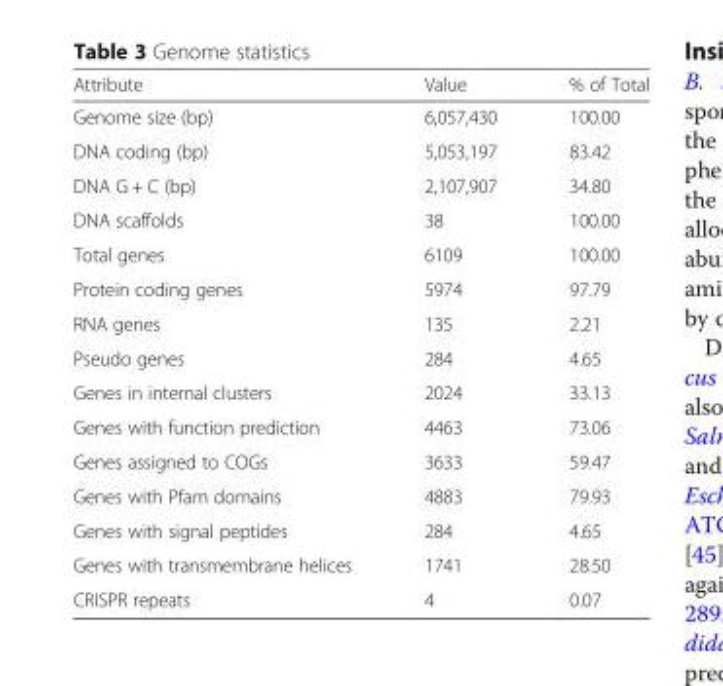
<table><thead><tr><td>Attribute</td><td>Value</td><td>% of Total</td></tr></thead><tbody><tr><td>Genome size (bp)</td><td>6,057,430</td><td>100.00</td></tr><tr><td>DNA coding (bp)</td><td>5,053,197</td><td>83.42</td></tr><tr><td>DNA G + C (bp)</td><td>2,107,907</td><td>34.80</td></tr><tr><td>DNA scaffolds</td><td>38</td><td>100.00</td></tr><tr><td>Total genes</td><td>6109</td><td>100.00</td></tr><tr><td>Protein coding genes</td><td>5974</td><td>97.79</td></tr><tr><td>RNA genes</td><td>135</td><td>2.21</td></tr><tr><td>Pseudo genes</td><td>284</td><td>4.65</td></tr><tr><td>Genes in internal clusters</td><td>2024</td><td>33.13</td></tr><tr><td>Genes with function prediction</td><td>4463</td><td>73.06</td></tr><tr><td>Genes assigned to COGs</td><td>3633</td><td>59.47</td></tr><tr><td>Genes with Pfam domains</td><td>4883</td><td>79.93</td></tr><tr><td>Genes with signal peptides</td><td>284</td><td>4.65</td></tr><tr><td>Genes with transmembrane helices</td><td>1741</td><td>28.50</td></tr><tr><td>CRISPR repeats</td><td>4</td><td>0.07</td></tr></tbody></table>